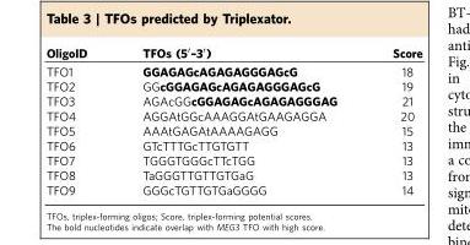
<table><thead><tr><td>OligoID</td><td>TFOs (5′–3′)</td><td>Score</td></tr></thead><tbody><tr><td>TFO1</td><td>GGAGAGcAGAGAGGGAGcG</td><td>18</td></tr><tr><td>TFO2</td><td>GGcGGAGAGcAGAGAGGGAGcG</td><td>19</td></tr><tr><td>TFO3</td><td>AGAcGGcGGAGAGcAGAGAGGGAG</td><td>21</td></tr><tr><td>TFO4</td><td>AGGAtGGcAAAGGAtGAAGAGGA</td><td>20</td></tr><tr><td>TFO5</td><td>AAAtGAGAtAAAAGAGG</td><td>15</td></tr><tr><td>TFO6</td><td>GTcTTTGcTTGTGTT</td><td>13</td></tr><tr><td>TFO7</td><td>TGGGTGGGcTTcTGG</td><td>13</td></tr><tr><td>TFO8</td><td>TaGGGTTGTTGTGaG</td><td>13</td></tr><tr><td>TFO9</td><td>GGGcTGTTGTGaGGGG</td><td>14</td></tr></tbody></table>